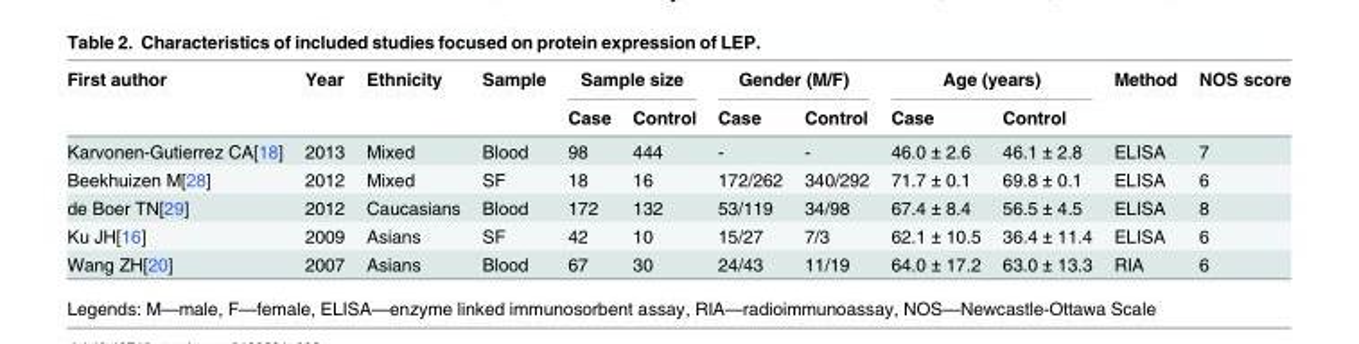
<table><thead><tr><td rowspan="2">First author</td><td rowspan="2">Year</td><td rowspan="2">Ethnicity</td><td rowspan="2">Sample</td><td colspan="2">Sample size</td><td colspan="2">Gender (M/F)</td><td colspan="2">Age (years)</td><td rowspan="2">Method</td><td rowspan="2">NOS score</td></tr><tr><td>Case</td><td>Control</td><td>Case</td><td>Control</td><td>Case</td><td>Control</td></tr></thead><tbody><tr><td>Karvonen-Gutierrez CA[18]</td><td>2013</td><td>Mixed</td><td>Blood</td><td>98</td><td>444</td><td>-</td><td>-</td><td>46.0 ± 2.6</td><td>46.1 ± 2.8</td><td>ELISA</td><td>7</td></tr><tr><td>Beekhuizen M[28]</td><td>2012</td><td>Mixed</td><td>SF</td><td>18</td><td>16</td><td>172/262</td><td>340/292</td><td>71.7 ± 0.1</td><td>69.8 ± 0.1</td><td>ELISA</td><td>6</td></tr><tr><td>de Boer TN[29]</td><td>2012</td><td>Caucasians</td><td>Blood</td><td>172</td><td>132</td><td>53/119</td><td>34/98</td><td>67.4 ± 8.4</td><td>56.5 ± 4.5</td><td>ELISA</td><td>8</td></tr><tr><td>Ku JH[16]</td><td>2009</td><td>Asians</td><td>SF</td><td>42</td><td>10</td><td>15/27</td><td>7/3</td><td>62.1 ± 10.5</td><td>36.4 ± 11.4</td><td>ELISA</td><td>6</td></tr><tr><td>Wang ZH[20]</td><td>2007</td><td>Asians</td><td>Blood</td><td>67</td><td>30</td><td>24/43</td><td>11/19</td><td>64.0 ± 17.2</td><td>63.0 ± 13.3</td><td>RIA</td><td>6</td></tr></tbody></table>